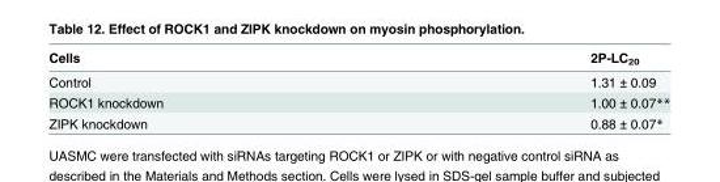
<table><thead><tr><td>Cells</td><td>2P-LC<sub>20</sub></td></tr></thead><tbody><tr><td>Control</td><td>1.31 ± 0.09</td></tr><tr><td>ROCK1 knockdown</td><td>1.00 ± 0.07**</td></tr><tr><td>ZIPK knockdown</td><td>0.88 ± 0.07*</td></tr></tbody></table>